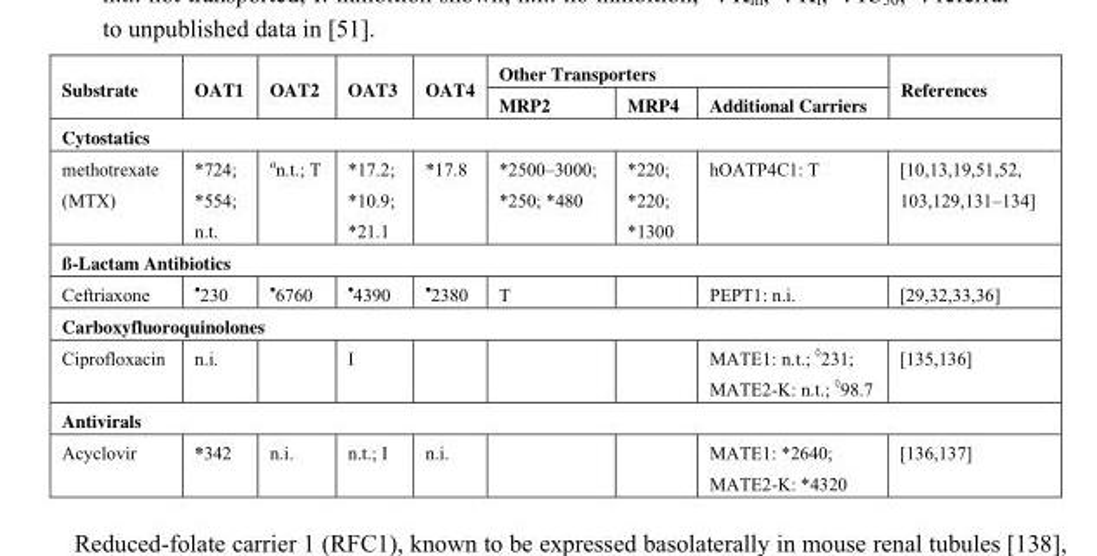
<table><thead><tr><td rowspan="2">Substrate</td><td rowspan="2">OAT1</td><td rowspan="2">OAT2</td><td rowspan="2">OAT3</td><td rowspan="2">OAT4</td><td colspan="3">Other Transporters</td><td rowspan="2">References</td></tr><tr><td>MRP2</td><td>MRP4</td><td>Additional Carriers</td></tr></thead><tbody><tr><td colspan="9">Cytostatics</td></tr><tr><td>methotrexate (MTX)</td><td>*724; *554; n.t.</td><td><sup>a</sup>n.t.; T</td><td>*17.2; *10.9; *21.1</td><td>*17.8</td><td>*2500–3000; *250; *480</td><td>*220; *220; *1300</td><td>hOATP4C1: T</td><td>[10,13,19,51,52, 103,129,131–134]</td></tr><tr><td colspan="9">ß-Lactam Antibiotics</td></tr><tr><td>Ceftriaxone</td><td><sup>●</sup>230</td><td><sup>●</sup>6760</td><td><sup>●</sup>4390</td><td><sup>●</sup>2380</td><td>T</td><td></td><td>PEPT1: n.i.</td><td>[29,32,33,36]</td></tr><tr><td colspan="9">Carboxyfluoroquinolones</td></tr><tr><td>Ciprofloxacin</td><td>n.i.</td><td></td><td>I</td><td></td><td></td><td></td><td>MATE1: n.t.; <sup>◊</sup>231; MATE2-K: n.t.; <sup>◊</sup>98.7</td><td>[135,136]</td></tr><tr><td colspan="9">Antivirals</td></tr><tr><td>Acyclovir</td><td>*342</td><td>n.i.</td><td>n.t.; I</td><td>n.i.</td><td></td><td></td><td>MATE1: *2640; MATE2-K: *4320</td><td>[136,137]</td></tr></tbody></table>